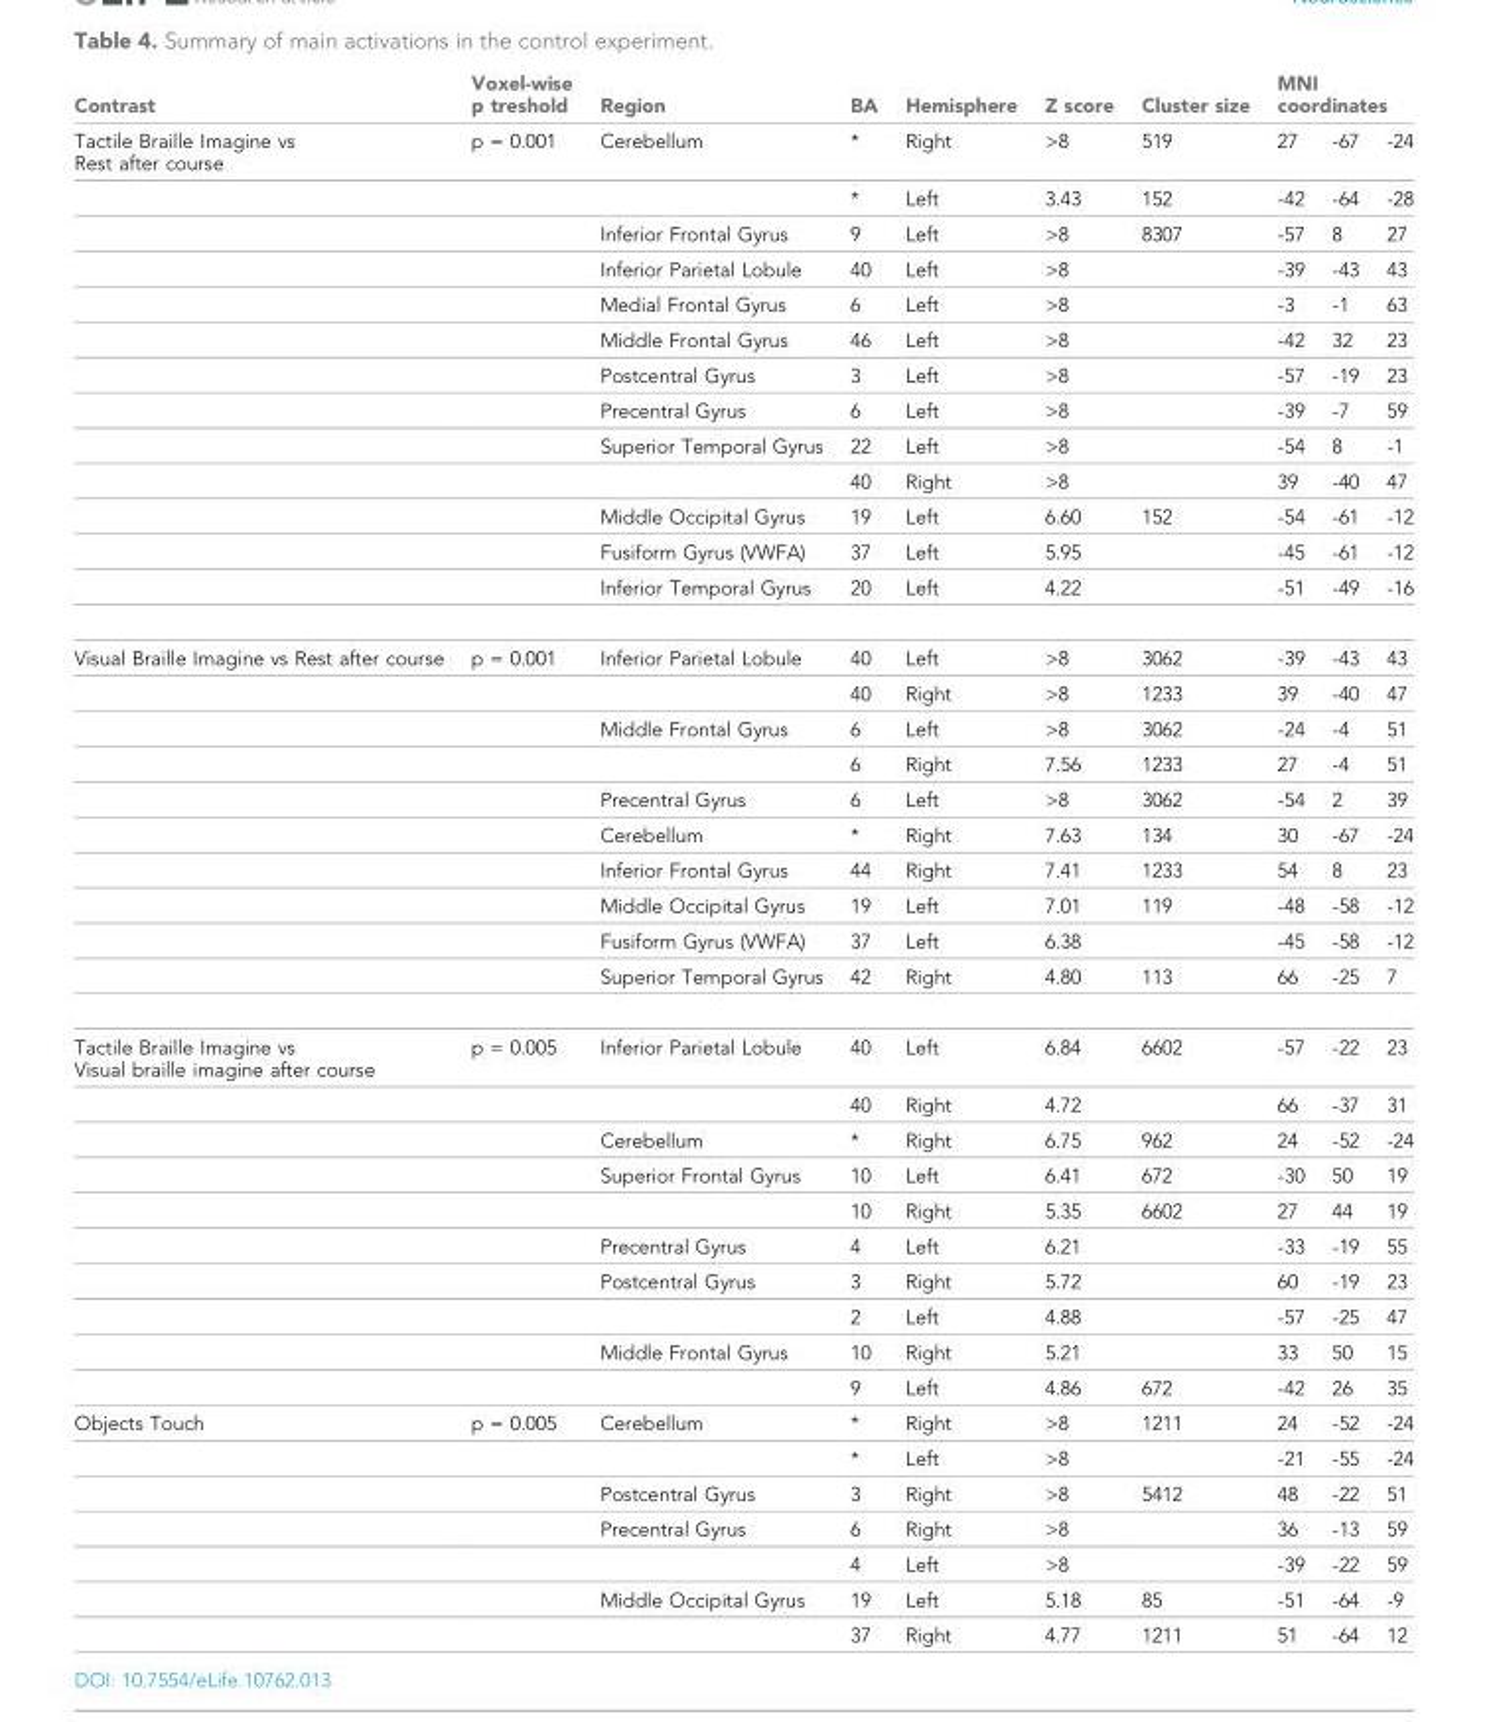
<table><thead><tr><td rowspan="2">Contrast Tactile Braille Imagine vs Rest after course</td><td rowspan="2">Voxel-wise p treshold p = 0.001</td><td rowspan="2">Region Cerebellum</td><td rowspan="2">BA *</td><td rowspan="2">Hemisphere Right</td><td rowspan="2">Z score &gt;8</td><td rowspan="2">Cluster size 519</td><td colspan="3">MNI coordinates</td></tr><tr><td>27</td><td>-67</td><td>-24</td></tr></thead><tbody><tr><td></td><td></td><td></td><td>*</td><td>Left</td><td>3.43</td><td>152</td><td>-42</td><td>-64</td><td>-28</td></tr><tr><td></td><td></td><td>Inferior Frontal Gyrus</td><td>9</td><td>Left</td><td>&gt;8</td><td>8307</td><td>-57</td><td>8</td><td>27</td></tr><tr><td></td><td></td><td>Inferior Parietal Lobule</td><td>40</td><td>Left</td><td>&gt;8</td><td></td><td>-39</td><td>-43</td><td>43</td></tr><tr><td></td><td></td><td>Medial Frontal Gyrus</td><td>6</td><td>Left</td><td>&gt;8</td><td></td><td>-3</td><td>-1</td><td>63</td></tr><tr><td></td><td></td><td>Middle Frontal Gyrus</td><td>46</td><td>Left</td><td>&gt;8</td><td></td><td>-42</td><td>32</td><td>23</td></tr><tr><td></td><td></td><td>Postcentral Gyrus</td><td>3</td><td>Left</td><td>&gt;8</td><td></td><td>-57</td><td>-19</td><td>23</td></tr><tr><td></td><td></td><td>Precentral Gyrus</td><td>6</td><td>Left</td><td>&gt;8</td><td></td><td>-39</td><td>-7</td><td>59</td></tr><tr><td></td><td></td><td>Superior Temporal Gyrus</td><td>22</td><td>Left</td><td>&gt;8</td><td></td><td>-54</td><td>8</td><td>-1</td></tr><tr><td></td><td></td><td></td><td>40</td><td>Right</td><td>&gt;8</td><td></td><td>39</td><td>-40</td><td>47</td></tr><tr><td></td><td></td><td>Middle Occipital Gyrus</td><td>19</td><td>Left</td><td>6.60</td><td>152</td><td>-54</td><td>-61</td><td>-12</td></tr><tr><td></td><td></td><td>Fusiform Gyrus (VWFA)</td><td>37</td><td>Left</td><td>5.95</td><td></td><td>-45</td><td>-61</td><td>-12</td></tr><tr><td></td><td></td><td>Inferior Temporal Gyrus</td><td>20</td><td>Left</td><td>4.22</td><td></td><td>-51</td><td>-49</td><td>-16</td></tr><tr><td rowspan="10">Visual Braille Imagine vs Rest after course</td><td>p = 0.001</td><td>Inferior Parietal Lobule</td><td>40</td><td>Left</td><td>&gt;8</td><td>3062</td><td>-39</td><td>-43</td><td>43</td></tr><tr><td></td><td></td><td>40</td><td>Right</td><td>&gt;8</td><td>1233</td><td>39</td><td>-40</td><td>47</td></tr><tr><td></td><td>Middle Frontal Gyrus</td><td>6</td><td>Left</td><td>&gt;8</td><td>3062</td><td>-24</td><td>-4</td><td>51</td></tr><tr><td></td><td></td><td>6</td><td>Right</td><td>7.56</td><td>1233</td><td>27</td><td>-4</td><td>51</td></tr><tr><td></td><td>Precentral Gyrus</td><td>6</td><td>Left</td><td>&gt;8</td><td>3062</td><td>-54</td><td>2</td><td>39</td></tr><tr><td></td><td>Cerebellum</td><td>*</td><td>Right</td><td>7.63</td><td>134</td><td>30</td><td>-67</td><td>-24</td></tr><tr><td></td><td>Inferior Frontal Gyrus</td><td>44</td><td>Right</td><td>7.41</td><td>1233</td><td>54</td><td>8</td><td>23</td></tr><tr><td></td><td>Middle Occipital Gyrus</td><td>19</td><td>Left</td><td>7.01</td><td>119</td><td>-48</td><td>-58</td><td>-12</td></tr><tr><td></td><td>Fusiform Gyrus (VWFA)</td><td>37</td><td>Left</td><td>6.38</td><td></td><td>-45</td><td>-58</td><td>-12</td></tr><tr><td></td><td>Superior Temporal Gyrus</td><td>42</td><td>Right</td><td>4.80</td><td>113</td><td>66</td><td>-25</td><td>7</td></tr><tr><td rowspan="10">Tactile Braille Imagine vs Visual braille imagine after course</td><td>p = 0.005</td><td>Inferior Parietal Lobule</td><td>40</td><td>Left</td><td>6.84</td><td>6602</td><td>-57</td><td>-22</td><td>23</td></tr><tr><td></td><td></td><td>40</td><td>Right</td><td>4.72</td><td></td><td>66</td><td>-37</td><td>31</td></tr><tr><td></td><td>Cerebellum</td><td>*</td><td>Right</td><td>6.75</td><td>962</td><td>24</td><td>-52</td><td>-24</td></tr><tr><td></td><td>Superior Frontal Gyrus</td><td>10</td><td>Left</td><td>6.41</td><td>672</td><td>-30</td><td>50</td><td>19</td></tr><tr><td></td><td></td><td>10</td><td>Right</td><td>5.35</td><td>6602</td><td>27</td><td>44</td><td>19</td></tr><tr><td></td><td>Precentral Gyrus</td><td>4</td><td>Left</td><td>6.21</td><td></td><td>-33</td><td>-19</td><td>55</td></tr><tr><td></td><td>Postcentral Gyrus</td><td>3</td><td>Right</td><td>5.72</td><td></td><td>60</td><td>-19</td><td>23</td></tr><tr><td></td><td></td><td>2</td><td>Left</td><td>4.88</td><td></td><td>-57</td><td>-25</td><td>47</td></tr><tr><td></td><td>Middle Frontal Gyrus</td><td>10</td><td>Right</td><td>5.21</td><td></td><td>33</td><td>50</td><td>15</td></tr><tr><td></td><td></td><td>9</td><td>Left</td><td>4.86</td><td>672</td><td>-42</td><td>26</td><td>35</td></tr><tr><td rowspan="7">Objects Touch</td><td>p = 0.005</td><td>Cerebellum</td><td>*</td><td>Right</td><td>&gt;8</td><td>1211</td><td>24</td><td>-52</td><td>-24</td></tr><tr><td></td><td></td><td>*</td><td>Left</td><td>&gt;8</td><td></td><td>-21</td><td>-55</td><td>-24</td></tr><tr><td></td><td>Postcentral Gyrus</td><td>3</td><td>Right</td><td>&gt;8</td><td>5412</td><td>48</td><td>-22</td><td>51</td></tr><tr><td></td><td>Precentral Gyrus</td><td>6</td><td>Right</td><td>&gt;8</td><td></td><td>36</td><td>-13</td><td>59</td></tr><tr><td></td><td></td><td>4</td><td>Left</td><td>&gt;8</td><td></td><td>-39</td><td>-22</td><td>59</td></tr><tr><td></td><td>Middle Occipital Gyrus</td><td>19</td><td>Left</td><td>5.18</td><td>85</td><td>-51</td><td>-64</td><td>-9</td></tr><tr><td></td><td></td><td>37</td><td>Right</td><td>4.77</td><td>1211</td><td>51</td><td>-64</td><td>12</td></tr></tbody></table>